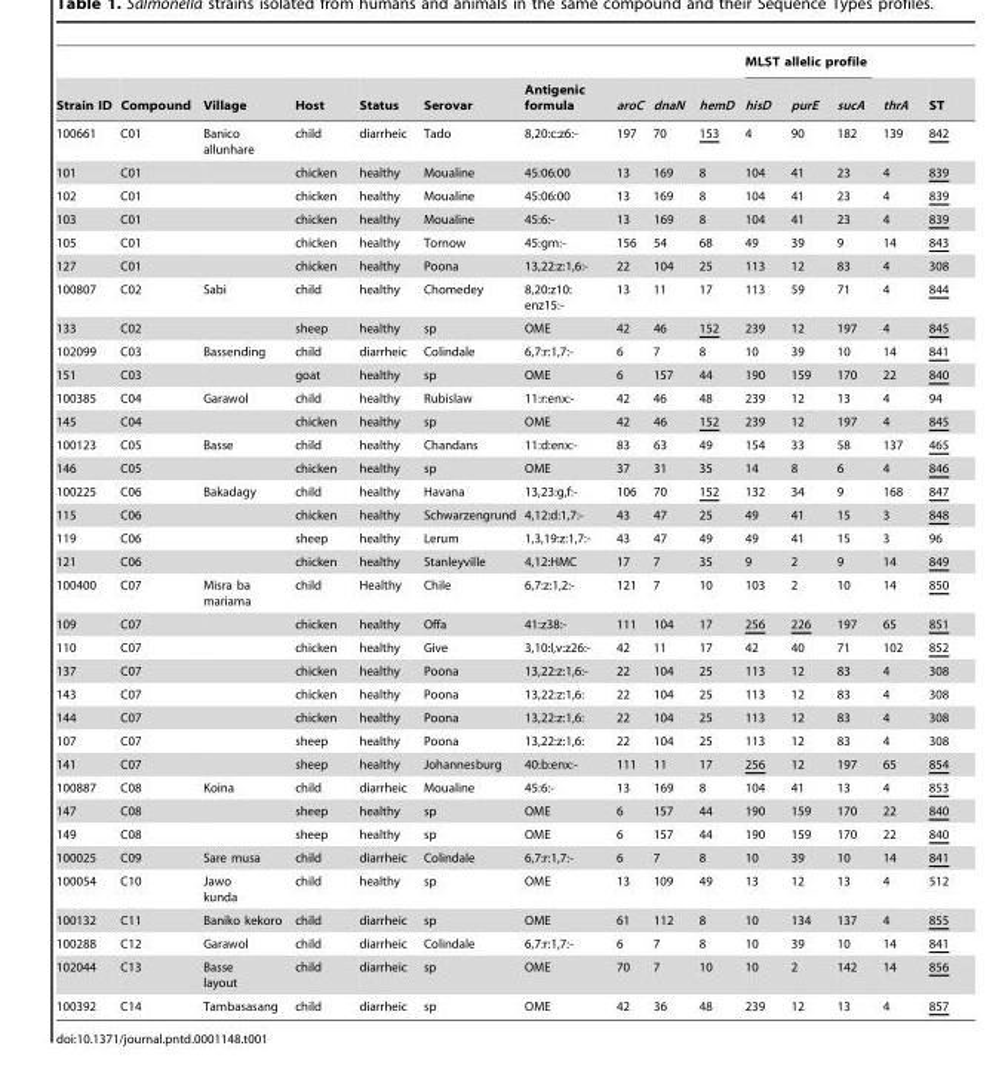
<table><thead><tr><td rowspan="2">Strain ID</td><td rowspan="2">Compound</td><td rowspan="2">Village</td><td rowspan="2">Host</td><td rowspan="2">Status</td><td rowspan="2">Serovar</td><td rowspan="2">Antigenic formula</td><td rowspan="2">aroC</td><td rowspan="2">dnaN</td><td rowspan="2">hemD</td><td colspan="3">MLST allelic profile</td><td rowspan="2">thrA</td><td rowspan="2">ST</td></tr><tr><td>hisD</td><td>purE</td><td>sucA</td></tr></thead><tbody><tr><td>100661</td><td>C01</td><td>Banico allunhare</td><td>child</td><td>diarrheic</td><td>Tado</td><td>8,20:c:z6:-</td><td>197</td><td>70</td><td>153</td><td>4</td><td>90</td><td>182</td><td>139</td><td>842</td></tr><tr><td>101</td><td>C01</td><td></td><td>chicken</td><td>healthy</td><td>Moualine</td><td>45:06:00</td><td>13</td><td>169</td><td>8</td><td>104</td><td>41</td><td>23</td><td>4</td><td>839</td></tr><tr><td>102</td><td>C01</td><td></td><td>chicken</td><td>healthy</td><td>Moualine</td><td>45:06:00</td><td>13</td><td>169</td><td>8</td><td>104</td><td>41</td><td>23</td><td>4</td><td>839</td></tr><tr><td>103</td><td>C01</td><td></td><td>chicken</td><td>healthy</td><td>Moualine</td><td>45:6:-</td><td>13</td><td>169</td><td>8</td><td>104</td><td>41</td><td>23</td><td>4</td><td>839</td></tr><tr><td>105</td><td>C01</td><td></td><td>chicken</td><td>healthy</td><td>Tornow</td><td>45:gm:-</td><td>156</td><td>54</td><td>68</td><td>49</td><td>39</td><td>9</td><td>14</td><td>843</td></tr><tr><td>127</td><td>C01</td><td></td><td>chicken</td><td>healthy</td><td>Poona</td><td>13,22:z:1,6:-</td><td>22</td><td>104</td><td>25</td><td>113</td><td>12</td><td>83</td><td>4</td><td>308</td></tr><tr><td>100807</td><td>C02</td><td>Sabi</td><td>child</td><td>healthy</td><td>Chomedey</td><td>8,20:z10: enz15:-</td><td>13</td><td>11</td><td>17</td><td>113</td><td>59</td><td>71</td><td>4</td><td>844</td></tr><tr><td>133</td><td>C02</td><td></td><td>sheep</td><td>healthy</td><td>sp</td><td>OME</td><td>42</td><td>46</td><td>152</td><td>239</td><td>12</td><td>197</td><td>4</td><td>845</td></tr><tr><td>102099</td><td>C03</td><td>Bassending</td><td>child</td><td>diarrheic</td><td>Colindale</td><td>6,7:r:1,7:-</td><td>6</td><td>7</td><td>8</td><td>10</td><td>39</td><td>10</td><td>14</td><td>841</td></tr><tr><td>151</td><td>C03</td><td></td><td>goat</td><td>healthy</td><td>sp</td><td>OME</td><td>6</td><td>157</td><td>44</td><td>190</td><td>159</td><td>170</td><td>22</td><td>840</td></tr><tr><td>100385</td><td>C04</td><td>Garawol</td><td>child</td><td>healthy</td><td>Rubislaw</td><td>11:r:enx:-</td><td>42</td><td>46</td><td>48</td><td>239</td><td>12</td><td>13</td><td>4</td><td>94</td></tr><tr><td>145</td><td>C04</td><td></td><td>chicken</td><td>healthy</td><td>sp</td><td>OME</td><td>42</td><td>46</td><td>152</td><td>239</td><td>12</td><td>197</td><td>4</td><td>845</td></tr><tr><td>100123</td><td>C05</td><td>Basse</td><td>child</td><td>healthy</td><td>Chandans</td><td>11:d:enx:-</td><td>83</td><td>63</td><td>49</td><td>154</td><td>33</td><td>58</td><td>137</td><td>465</td></tr><tr><td>146</td><td>C05</td><td></td><td>chicken</td><td>healthy</td><td>sp</td><td>OME</td><td>37</td><td>31</td><td>35</td><td>14</td><td>8</td><td>6</td><td>4</td><td>846</td></tr><tr><td>100225</td><td>C06</td><td>Bakadagy</td><td>child</td><td>healthy</td><td>Havana</td><td>13,23:g,f:-</td><td>106</td><td>70</td><td>152</td><td>132</td><td>34</td><td>9</td><td>168</td><td>847</td></tr><tr><td>115</td><td>C06</td><td></td><td>chicken</td><td>healthy</td><td>Schwarzengrund</td><td>4,12:d:1,7:-</td><td>43</td><td>47</td><td>25</td><td>49</td><td>41</td><td>15</td><td>3</td><td>848</td></tr><tr><td>119</td><td>C06</td><td></td><td>sheep</td><td>healthy</td><td>Lerum</td><td>1,3,19:z:1,7:-</td><td>43</td><td>47</td><td>49</td><td>49</td><td>41</td><td>15</td><td>3</td><td>96</td></tr><tr><td>121</td><td>C06</td><td></td><td>chicken</td><td>healthy</td><td>Stanleyville</td><td>4,12:HMC</td><td>17</td><td>7</td><td>35</td><td>9</td><td>2</td><td>9</td><td>14</td><td>849</td></tr><tr><td>100400</td><td>C07</td><td>Misra ba mariama</td><td>child</td><td>Healthy</td><td>Chile</td><td>6,7:z:1,2:-</td><td>121</td><td>7</td><td>10</td><td>103</td><td>2</td><td>10</td><td>14</td><td>850</td></tr><tr><td>109</td><td>C07</td><td></td><td>chicken</td><td>healthy</td><td>Offa</td><td>41:z38:-</td><td>111</td><td>104</td><td>17</td><td>256</td><td>226</td><td>197</td><td>65</td><td>851</td></tr><tr><td>110</td><td>C07</td><td></td><td>chicken</td><td>healthy</td><td>Give</td><td>3,10:l,v:z26:-</td><td>42</td><td>11</td><td>17</td><td>42</td><td>40</td><td>71</td><td>102</td><td>852</td></tr><tr><td>137</td><td>C07</td><td></td><td>chicken</td><td>healthy</td><td>Poona</td><td>13,22:z:1,6:-</td><td>22</td><td>104</td><td>25</td><td>113</td><td>12</td><td>83</td><td>4</td><td>308</td></tr><tr><td>143</td><td>C07</td><td></td><td>chicken</td><td>healthy</td><td>Poona</td><td>13,22:z:1,6:</td><td>22</td><td>104</td><td>25</td><td>113</td><td>12</td><td>83</td><td>4</td><td>308</td></tr><tr><td>144</td><td>C07</td><td></td><td>chicken</td><td>healthy</td><td>Poona</td><td>13,22:z:1,6:</td><td>22</td><td>104</td><td>25</td><td>113</td><td>12</td><td>83</td><td>4</td><td>308</td></tr><tr><td>107</td><td>C07</td><td></td><td>sheep</td><td>healthy</td><td>Poona</td><td>13,22:z:1,6:</td><td>22</td><td>104</td><td>25</td><td>113</td><td>12</td><td>83</td><td>4</td><td>308</td></tr><tr><td>141</td><td>C07</td><td></td><td>sheep</td><td>healthy</td><td>Johannesburg</td><td>40:b:enx:-</td><td>111</td><td>11</td><td>17</td><td>256</td><td>12</td><td>197</td><td>65</td><td>854</td></tr><tr><td>100887</td><td>C08</td><td>Koina</td><td>child</td><td>diarrheic</td><td>Moualine</td><td>45:6:-</td><td>13</td><td>169</td><td>8</td><td>104</td><td>41</td><td>13</td><td>4</td><td>853</td></tr><tr><td>147</td><td>C08</td><td></td><td>sheep</td><td>healthy</td><td>sp</td><td>OME</td><td>6</td><td>157</td><td>44</td><td>190</td><td>159</td><td>170</td><td>22</td><td>840</td></tr><tr><td>149</td><td>C08</td><td></td><td>sheep</td><td>healthy</td><td>sp</td><td>OME</td><td>6</td><td>157</td><td>44</td><td>190</td><td>159</td><td>170</td><td>22</td><td>840</td></tr><tr><td>100025</td><td>C09</td><td>Sare musa</td><td>child</td><td>diarrheic</td><td>Colindale</td><td>6,7:r:1,7:-</td><td>6</td><td>7</td><td>8</td><td>10</td><td>39</td><td>10</td><td>14</td><td>841</td></tr><tr><td>100054</td><td>C10</td><td>Jawo kunda</td><td>child</td><td>healthy</td><td>sp</td><td>OME</td><td>13</td><td>109</td><td>49</td><td>13</td><td>12</td><td>13</td><td>4</td><td>512</td></tr><tr><td>100132</td><td>C11</td><td>Baniko kekoro</td><td>child</td><td>diarrheic</td><td>sp</td><td>OME</td><td>61</td><td>112</td><td>8</td><td>10</td><td>134</td><td>137</td><td>4</td><td>855</td></tr><tr><td>100288</td><td>C12</td><td>Garawol</td><td>child</td><td>diarrheic</td><td>Colindale</td><td>6,7:r:1,7:-</td><td>6</td><td>7</td><td>8</td><td>10</td><td>39</td><td>10</td><td>14</td><td>841</td></tr><tr><td>102044</td><td>C13</td><td>Basse layout</td><td>child</td><td>diarrheic</td><td>sp</td><td>OME</td><td>70</td><td>7</td><td>10</td><td>10</td><td>2</td><td>142</td><td>14</td><td>856</td></tr><tr><td>100392</td><td>C14</td><td>Tambasasang</td><td>child</td><td>diarrheic</td><td>sp</td><td>OME</td><td>42</td><td>36</td><td>48</td><td>239</td><td>12</td><td>13</td><td>4</td><td>857</td></tr></tbody></table>